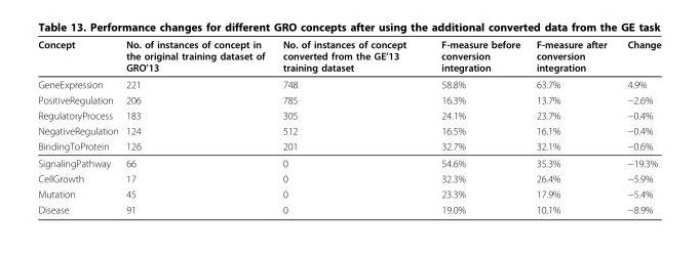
<table><thead><tr><td>Concept</td><td>No. of instances of concept in the original training dataset of GRO’13</td><td>No. of instances of concept converted from the GE’13 training dataset</td><td>F-measure before conversion integration</td><td>F-measure after conversion integration</td><td>Change</td></tr></thead><tbody><tr><td>GeneExpression</td><td>221</td><td>748</td><td>58.8%</td><td>63.7%</td><td>4.9%</td></tr><tr><td>PositiveRegulation</td><td>206</td><td>785</td><td>16.3%</td><td>13.7%</td><td>−2.6%</td></tr><tr><td>RegulatoryProcess</td><td>183</td><td>305</td><td>24.1%</td><td>23.7%</td><td>−0.4%</td></tr><tr><td>NegativeRegulation</td><td>124</td><td>512</td><td>16.5%</td><td>16.1%</td><td>−0.4%</td></tr><tr><td>BindingToProtein</td><td>126</td><td>201</td><td>32.7%</td><td>32.1%</td><td>−0.6%</td></tr><tr><td>SignalingPathway</td><td>66</td><td>0</td><td>54.6%</td><td>35.3%</td><td>−19.3%</td></tr><tr><td>CellGrowth</td><td>17</td><td>0</td><td>32.3%</td><td>26.4%</td><td>−5.9%</td></tr><tr><td>Mutation</td><td>45</td><td>0</td><td>23.3%</td><td>17.9%</td><td>−5.4%</td></tr><tr><td>Disease</td><td>91</td><td>0</td><td>19.0%</td><td>10.1%</td><td>−8.9%</td></tr></tbody></table>